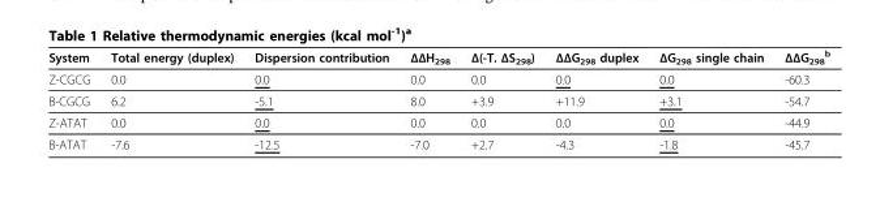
<table><thead><tr><td>System</td><td>Total energy (duplex)</td><td>Dispersion contribution</td><td>ΔΔH<sub>298</sub></td><td>Δ(-T. ΔS<sub>298</sub>)</td><td>ΔΔG<sub>298</sub> duplex</td><td>ΔG<sub>298</sub> single chain</td><td>ΔΔG<sub>298</sub> <sup>b</sup></td></tr></thead><tbody><tr><td>Z-CGCG</td><td>0.0</td><td>0.0</td><td>0.0</td><td>0.0</td><td>0.0</td><td>0.0</td><td>-60.3</td></tr><tr><td>B-CGCG</td><td>6.2</td><td>-5.1</td><td>8.0</td><td>+3.9</td><td>+11.9</td><td>+3.1</td><td>-54.7</td></tr><tr><td>Z-ATAT</td><td>0.0</td><td>0.0</td><td>0.0</td><td>0.0</td><td>0.0</td><td>0.0</td><td>-44.9</td></tr><tr><td>B-ATAT</td><td>-7.6</td><td>-12.5</td><td>-7.0</td><td>+2.7</td><td>-4.3</td><td>-1.8</td><td>-45.7</td></tr></tbody></table>